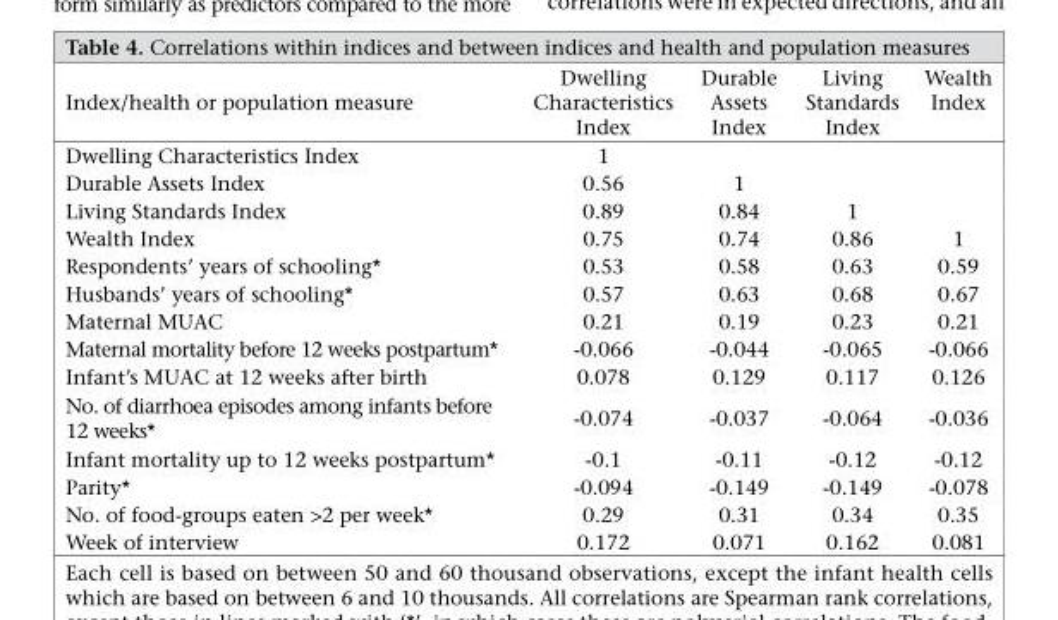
<table><thead><tr><td>Index/health or population measure</td><td>Dwelling Characteristics Index</td><td>Durable Assets Index</td><td>Living Standards Index</td><td>Wealth Index</td></tr></thead><tbody><tr><td>Dwelling Characteristics Index</td><td>1</td><td></td><td></td><td></td></tr><tr><td>Durable Assets Index</td><td>0.56</td><td>1</td><td></td><td></td></tr><tr><td>Living Standards Index</td><td>0.89</td><td>0.84</td><td>1</td><td></td></tr><tr><td>Wealth Index</td><td>0.75</td><td>0.74</td><td>0.86</td><td>1</td></tr><tr><td>Respondents’ years of schooling*</td><td>0.53</td><td>0.58</td><td>0.63</td><td>0.59</td></tr><tr><td>Husbands’ years of schooling*</td><td>0.57</td><td>0.63</td><td>0.68</td><td>0.67</td></tr><tr><td>Maternal MUAC</td><td>0.21</td><td>0.19</td><td>0.23</td><td>0.21</td></tr><tr><td>Maternal mortality before 12 weeks postpartum*</td><td>-0.066</td><td>-0.044</td><td>-0.065</td><td>-0.066</td></tr><tr><td>Infant’s MUAC at 12 weeks after birth</td><td>0.078</td><td>0.129</td><td>0.117</td><td>0.126</td></tr><tr><td>No. of diarrhoea episodes among infants before 12 weeks*</td><td>-0.074</td><td>-0.037</td><td>-0.064</td><td>-0.036</td></tr><tr><td>Infant mortality up to 12 weeks postpartum*</td><td>-0.1</td><td>-0.11</td><td>-0.12</td><td>-0.12</td></tr><tr><td>Parity*</td><td>-0.094</td><td>-0.149</td><td>-0.149</td><td>-0.078</td></tr><tr><td>No. of food-groups eaten &gt;2 per week*</td><td>0.29</td><td>0.31</td><td>0.34</td><td>0.35</td></tr><tr><td>Week of interview</td><td>0.172</td><td>0.071</td><td>0.162</td><td>0.081</td></tr></tbody></table>